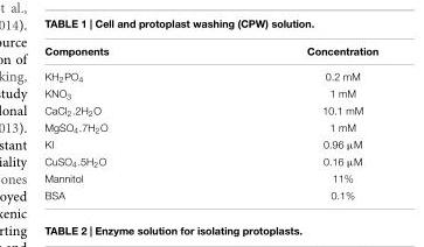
<table><thead><tr><td>Components</td><td>Concentration</td></tr></thead><tbody><tr><td>KH<sub>2</sub>PO<sub>4</sub></td><td>0.2 mM</td></tr><tr><td>KNO<sub>3</sub></td><td>1 mM</td></tr><tr><td>CaCl<sub>2</sub>.2H<sub>2</sub>O</td><td>10.1 mM</td></tr><tr><td>MgSO<sub>4</sub>.7H<sub>2</sub>O</td><td>1 mM</td></tr><tr><td>KI</td><td>0.96 µM</td></tr><tr><td>CuSO<sub>4</sub>.5H<sub>2</sub>O</td><td>0.16 µM</td></tr><tr><td>Mannitol</td><td>11%</td></tr><tr><td>BSA</td><td>0.1%</td></tr></tbody></table>